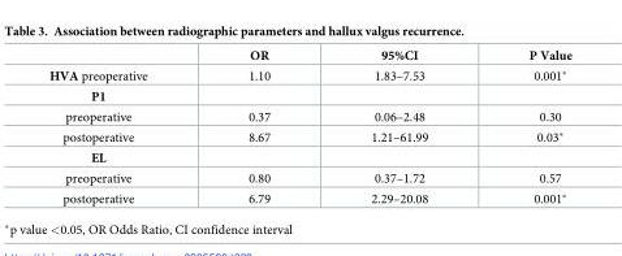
<table><thead><tr><td></td><td>OR</td><td>95%CI</td><td>P Value</td></tr></thead><tbody><tr><td>HVA preoperative</td><td>1.10</td><td>1.83–7.53</td><td>0.001*</td></tr><tr><td colspan="4">P1</td></tr><tr><td>preoperative</td><td>0.37</td><td>0.06–2.48</td><td>0.30</td></tr><tr><td>postoperative</td><td>8.67</td><td>1.21–61.99</td><td>0.03*</td></tr><tr><td colspan="4">EL</td></tr><tr><td>preoperative</td><td>0.80</td><td>0.37–1.72</td><td>0.57</td></tr><tr><td>postoperative</td><td>6.79</td><td>2.29–20.08</td><td>0.001*</td></tr></tbody></table>